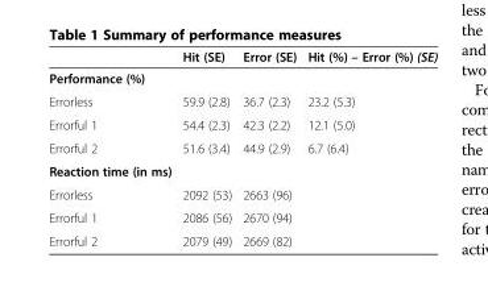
<table><thead><tr><td></td><td>Hit (SE)</td><td>Error (SE)</td><td>Hit (%) – Error (%) (SE)</td></tr></thead><tbody><tr><td colspan="4">Performance (%)</td></tr><tr><td>Errorless</td><td>59.9 (2.8)</td><td>36.7 (2.3)</td><td>23.2 (5.3)</td></tr><tr><td>Errorful 1</td><td>54.4 (2.3)</td><td>42.3 (2.2)</td><td>12.1 (5.0)</td></tr><tr><td>Errorful 2</td><td>51.6 (3.4)</td><td>44.9 (2.9)</td><td>6.7 (6.4)</td></tr><tr><td colspan="4">Reaction time (in ms)</td></tr><tr><td>Errorless</td><td>2092 (53)</td><td>2663 (96)</td><td></td></tr><tr><td>Errorful 1</td><td>2086 (56)</td><td>2670 (94)</td><td></td></tr><tr><td>Errorful 2</td><td>2079 (49)</td><td>2669 (82)</td><td></td></tr></tbody></table>